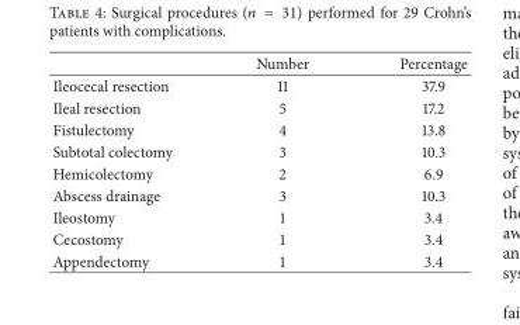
<table><thead><tr><td></td><td>Number</td><td>Percentage</td></tr></thead><tbody><tr><td>Ileocecal resection</td><td>11</td><td>37.9</td></tr><tr><td>Ileal resection</td><td>5</td><td>17.2</td></tr><tr><td>Fistulectomy</td><td>4</td><td>13.8</td></tr><tr><td>Subtotal colectomy</td><td>3</td><td>10.3</td></tr><tr><td>Hemicolectomy</td><td>2</td><td>6.9</td></tr><tr><td>Abscess drainage</td><td>3</td><td>10.3</td></tr><tr><td>Ileostomy</td><td>1</td><td>3.4</td></tr><tr><td>Cecostomy</td><td>1</td><td>3.4</td></tr><tr><td>Appendectomy</td><td>1</td><td>3.4</td></tr></tbody></table>